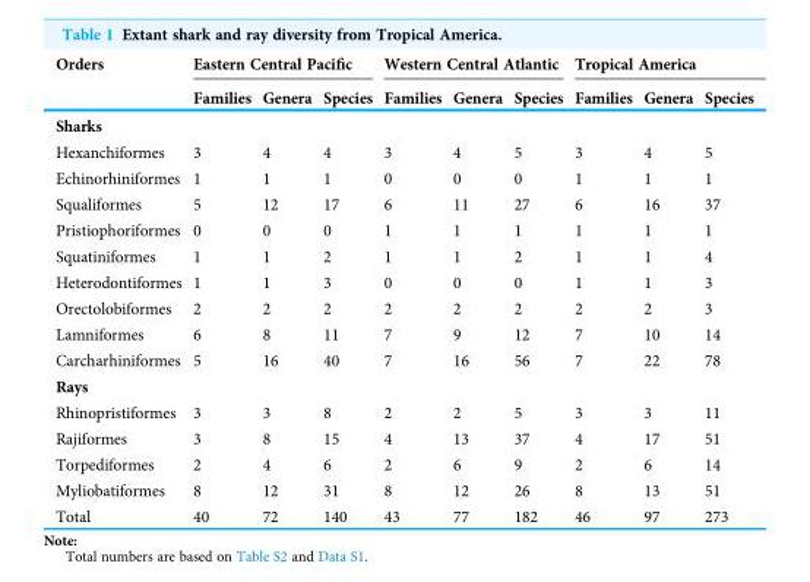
<table><thead><tr><td rowspan="2">Orders</td><td colspan="3">Eastern Central Pacific</td><td colspan="3">Western Central Atlantic</td><td colspan="3">Tropical America</td></tr><tr><td>Families</td><td>Genera</td><td>Species</td><td>Families</td><td>Genera</td><td>Species</td><td>Families</td><td>Genera</td><td>Species</td></tr></thead><tbody><tr><td colspan="10">Sharks</td></tr><tr><td>Hexanchiformes</td><td>3</td><td>4</td><td>4</td><td>3</td><td>4</td><td>5</td><td>3</td><td>4</td><td>5</td></tr><tr><td>Echinorhiniformes</td><td>1</td><td>1</td><td>1</td><td>0</td><td>0</td><td>0</td><td>1</td><td>1</td><td>1</td></tr><tr><td>Squaliformes</td><td>5</td><td>12</td><td>17</td><td>6</td><td>11</td><td>27</td><td>6</td><td>16</td><td>37</td></tr><tr><td>Pristiophoriformes</td><td>0</td><td>0</td><td>0</td><td>1</td><td>1</td><td>1</td><td>1</td><td>1</td><td>1</td></tr><tr><td>Squatiniformes</td><td>1</td><td>1</td><td>2</td><td>1</td><td>1</td><td>2</td><td>1</td><td>1</td><td>4</td></tr><tr><td>Heterodontiformes</td><td>1</td><td>1</td><td>3</td><td>0</td><td>0</td><td>0</td><td>1</td><td>1</td><td>3</td></tr><tr><td>Orectolobiformes</td><td>2</td><td>2</td><td>2</td><td>2</td><td>2</td><td>2</td><td>2</td><td>2</td><td>3</td></tr><tr><td>Lamniformes</td><td>6</td><td>8</td><td>11</td><td>7</td><td>9</td><td>12</td><td>7</td><td>10</td><td>14</td></tr><tr><td>Carcharhiniformes</td><td>5</td><td>16</td><td>40</td><td>7</td><td>16</td><td>56</td><td>7</td><td>22</td><td>78</td></tr><tr><td colspan="10">Rays</td></tr><tr><td>Rhinopristiformes</td><td>3</td><td>3</td><td>8</td><td>2</td><td>2</td><td>5</td><td>3</td><td>3</td><td>11</td></tr><tr><td>Rajiformes</td><td>3</td><td>8</td><td>15</td><td>4</td><td>13</td><td>37</td><td>4</td><td>17</td><td>51</td></tr><tr><td>Torpediformes</td><td>2</td><td>4</td><td>6</td><td>2</td><td>6</td><td>9</td><td>2</td><td>6</td><td>14</td></tr><tr><td>Myliobatiformes</td><td>8</td><td>12</td><td>31</td><td>8</td><td>12</td><td>26</td><td>8</td><td>13</td><td>51</td></tr><tr><td>Total</td><td>40</td><td>72</td><td>140</td><td>43</td><td>77</td><td>182</td><td>46</td><td>97</td><td>273</td></tr></tbody></table>